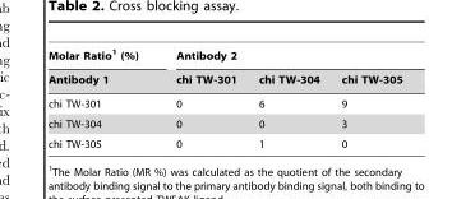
<table><thead><tr><td rowspan="2">Molar Ratio<sup>1</sup> (%) Antibody 1</td><td colspan="3">Antibody 2</td></tr><tr><td>chi TW-301</td><td>chi TW-304</td><td>chi TW-305</td></tr></thead><tbody><tr><td>chi TW-301</td><td>0</td><td>6</td><td>9</td></tr><tr><td>chi TW-304</td><td>0</td><td>0</td><td>3</td></tr><tr><td>chi TW-305</td><td>0</td><td>1</td><td>0</td></tr></tbody></table>